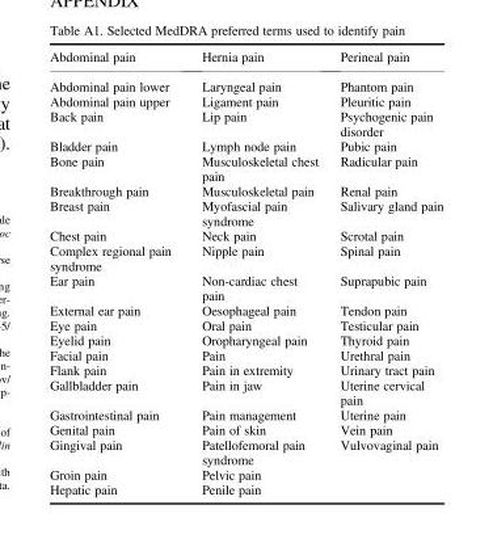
<table><thead><tr><td>Abdominal pain</td><td>Hernia pain</td><td>Perineal pain</td></tr></thead><tbody><tr><td>Abdominal pain lower</td><td>Laryngeal pain</td><td>Phantom pain</td></tr><tr><td>Abdominal pain upper</td><td>Ligament pain</td><td>Pleuritic pain</td></tr><tr><td>Back pain</td><td>Lip pain</td><td>Psychogenic pain disorder</td></tr><tr><td>Bladder pain</td><td>Lymph node pain</td><td>Pubic pain</td></tr><tr><td>Bone pain</td><td>Musculoskeletal chest pain</td><td>Radicular pain</td></tr><tr><td>Breakthrough pain</td><td>Musculoskeletal pain</td><td>Renal pain</td></tr><tr><td>Breast pain</td><td>Myofascial pain syndrome</td><td>Salivary gland pain</td></tr><tr><td>Chest pain</td><td>Neck pain</td><td>Scrotal pain</td></tr><tr><td>Complex regional pain syndrome</td><td>Nipple pain</td><td>Spinal pain</td></tr><tr><td>Ear pain</td><td>Non-cardiac chest pain</td><td>Suprapubic pain</td></tr><tr><td>External ear pain</td><td>Oesophageal pain</td><td>Tendon pain</td></tr><tr><td>Eye pain</td><td>Oral pain</td><td>Testicular pain</td></tr><tr><td>Eyelid pain</td><td>Oropharyngeal pain</td><td>Thyroid pain</td></tr><tr><td>Facial pain</td><td>Pain</td><td>Urethral pain</td></tr><tr><td>Flank pain</td><td>Pain in extremity</td><td>Urinary tract pain</td></tr><tr><td>Gallbladder pain</td><td>Pain in jaw</td><td>Uterine cervical pain</td></tr><tr><td>Gastrointestinal pain</td><td>Pain management</td><td>Uterine pain</td></tr><tr><td>Genital pain</td><td>Pain of skin</td><td>Vein pain</td></tr><tr><td>Gingival pain</td><td>Patellofemoral pain syndrome</td><td>Vulvovaginal pain</td></tr><tr><td>Groin pain</td><td>Pelvic pain</td><td></td></tr><tr><td>Hepatic pain</td><td>Penile pain</td><td></td></tr></tbody></table>